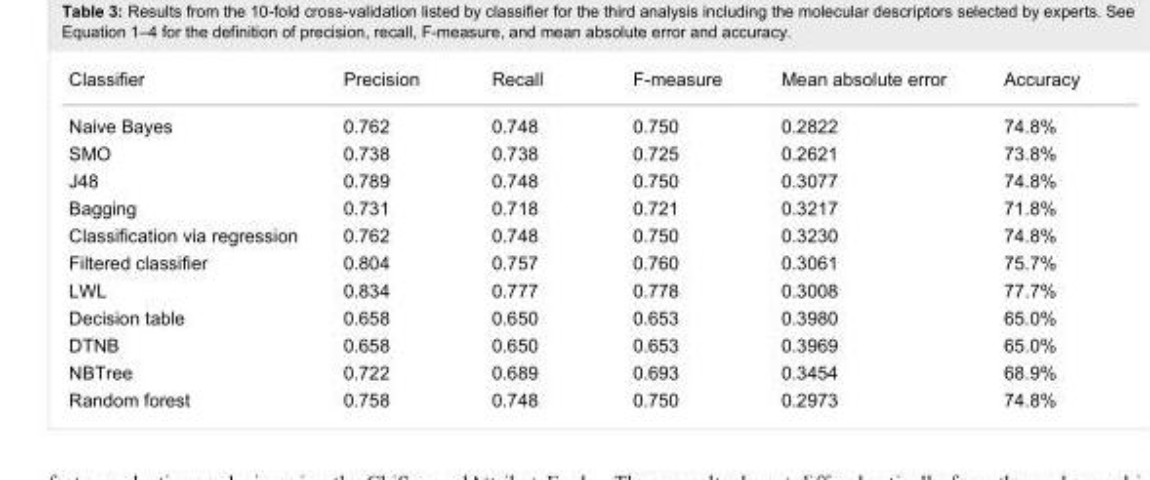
<table><tbody><tr><td>Classifier</td><td>Precision</td><td>Recall</td><td>F-measure</td><td>Mean absolute error</td><td>Accuracy</td></tr><tr><td>Naive Bayes</td><td>0.762</td><td>0.748</td><td>0.750</td><td>0.2822</td><td>74.8%</td></tr><tr><td>SMO</td><td>0.738</td><td>0.738</td><td>0.725</td><td>0.2621</td><td>73.8%</td></tr><tr><td>J48</td><td>0.789</td><td>0.748</td><td>0.750</td><td>0.3077</td><td>74.8%</td></tr><tr><td>Bagging</td><td>0.731</td><td>0.718</td><td>0.721</td><td>0.3217</td><td>71.8%</td></tr><tr><td>Classification via regression</td><td>0.762</td><td>0.748</td><td>0.750</td><td>0.3230</td><td>74.8%</td></tr><tr><td>Filtered classifier</td><td>0.804</td><td>0.757</td><td>0.760</td><td>0.3061</td><td>75.7%</td></tr><tr><td>LWL</td><td>0.834</td><td>0.777</td><td>0.778</td><td>0.3008</td><td>77.7%</td></tr><tr><td>Decision table</td><td>0.658</td><td>0.650</td><td>0.653</td><td>0.3980</td><td>65.0%</td></tr><tr><td>DTNB</td><td>0.658</td><td>0.650</td><td>0.653</td><td>0.3969</td><td>65.0%</td></tr><tr><td>NBTree</td><td>0.722</td><td>0.689</td><td>0.693</td><td>0.3454</td><td>68.9%</td></tr><tr><td>Random forest</td><td>0.758</td><td>0.748</td><td>0.750</td><td>0.2973</td><td>74.8%</td></tr></tbody></table>